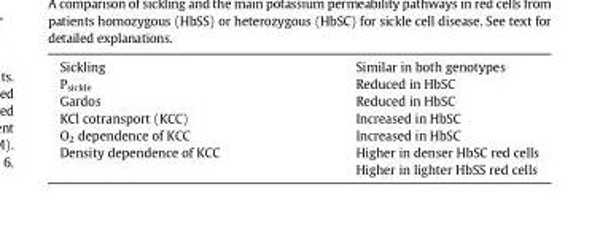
<table><tbody><tr><td>Sickling</td><td>Similar in both genotypes</td></tr><tr><td>P<sub>sickle</sub></td><td>Reduced in HbSC</td></tr><tr><td>Gardos</td><td>Reduced in HbSC</td></tr><tr><td>KCl cotransport (KCC)</td><td>Increased in HbSC</td></tr><tr><td>O<sub>2</sub> dependence of KCC</td><td>Increased in HbSC</td></tr><tr><td rowspan="2">Density dependence of KCC</td><td>Higher in denser HbSC red cells</td></tr><tr><td>Higher in lighter HbSS red cells</td></tr></tbody></table>